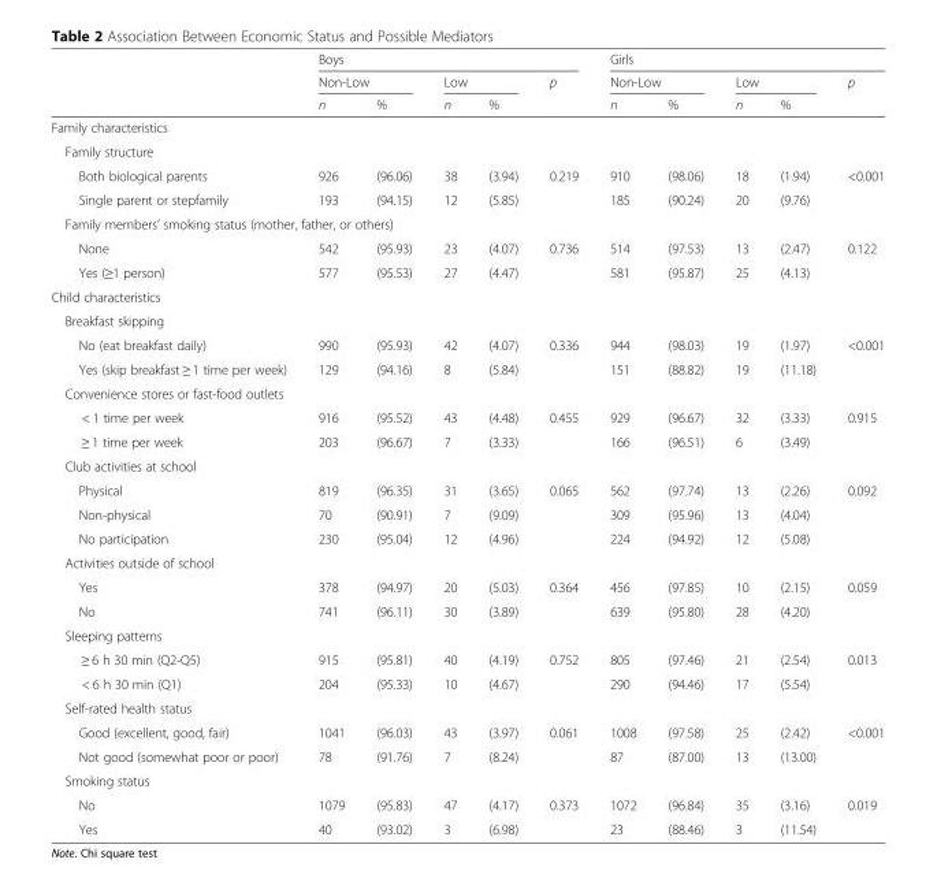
<table><thead><tr><td rowspan="3"></td><td colspan="5">Boys</td><td colspan="5">Girls</td></tr><tr><td colspan="2">Non-Low</td><td colspan="2">Low</td><td rowspan="2">p</td><td colspan="2">Non-Low</td><td colspan="2">Low</td><td rowspan="2">p</td></tr><tr><td>n</td><td>%</td><td>n</td><td>%</td><td>n</td><td>%</td><td>n</td><td>%</td></tr></thead><tbody><tr><td colspan="11">Family characteristics</td></tr><tr><td colspan="11">Family structure</td></tr><tr><td>Both biological parents</td><td>926</td><td>(96.06)</td><td>38</td><td>(3.94)</td><td rowspan="2">0.219</td><td>910</td><td>(98.06)</td><td>18</td><td>(1.94)</td><td rowspan="2">&lt;0.001</td></tr><tr><td>Single parent or stepfamily</td><td>193</td><td>(94.15)</td><td>12</td><td>(5.85)</td><td>185</td><td>(90.24)</td><td>20</td><td>(9.76)</td></tr><tr><td colspan="11">Family members’ smoking status (mother, father, or others)</td></tr><tr><td>None</td><td>542</td><td>(95.93)</td><td>23</td><td>(4.07)</td><td rowspan="2">0.736</td><td>514</td><td>(97.53)</td><td>13</td><td>(2.47)</td><td rowspan="2">0.122</td></tr><tr><td>Yes (≥1 person)</td><td>577</td><td>(95.53)</td><td>27</td><td>(4.47)</td><td>581</td><td>(95.87)</td><td>25</td><td>(4.13)</td></tr><tr><td colspan="11">Child characteristics</td></tr><tr><td colspan="11">Breakfast skipping</td></tr><tr><td>No (eat breakfast daily)</td><td>990</td><td>(95.93)</td><td>42</td><td>(4.07)</td><td rowspan="2">0.336</td><td>944</td><td>(98.03)</td><td>19</td><td>(1.97)</td><td rowspan="2">&lt;0.001</td></tr><tr><td>Yes (skip breakfast ≥ 1 time per week)</td><td>129</td><td>(94.16)</td><td>8</td><td>(5.84)</td><td>151</td><td>(88.82)</td><td>19</td><td>(11.18)</td></tr><tr><td colspan="11">Convenience stores or fast-food outlets</td></tr><tr><td>&lt; 1 time per week</td><td>916</td><td>(95.52)</td><td>43</td><td>(4.48)</td><td rowspan="2">0.455</td><td>929</td><td>(96.67)</td><td>32</td><td>(3.33)</td><td rowspan="2">0.915</td></tr><tr><td>≥ 1 time per week</td><td>203</td><td>(96.67)</td><td>7</td><td>(3.33)</td><td>166</td><td>(96.51)</td><td>6</td><td>(3.49)</td></tr><tr><td colspan="11">Club activities at school</td></tr><tr><td>Physical</td><td>819</td><td>(96.35)</td><td>31</td><td>(3.65)</td><td rowspan="3">0.065</td><td>562</td><td>(97.74)</td><td>13</td><td>(2.26)</td><td rowspan="3">0.092</td></tr><tr><td>Non-physical</td><td>70</td><td>(90.91)</td><td>7</td><td>(9.09)</td><td>309</td><td>(95.96)</td><td>13</td><td>(4.04)</td></tr><tr><td>No participation</td><td>230</td><td>(95.04)</td><td>12</td><td>(4.96)</td><td>224</td><td>(94.92)</td><td>12</td><td>(5.08)</td></tr><tr><td colspan="11">Activities outside of school</td></tr><tr><td>Yes</td><td>378</td><td>(94.97)</td><td>20</td><td>(5.03)</td><td rowspan="2">0.364</td><td>456</td><td>(97.85)</td><td>10</td><td>(2.15)</td><td rowspan="2">0.059</td></tr><tr><td>No</td><td>741</td><td>(96.11)</td><td>30</td><td>(3.89)</td><td>639</td><td>(95.80)</td><td>28</td><td>(4.20)</td></tr><tr><td colspan="11">Sleeping patterns</td></tr><tr><td>≥ 6 h 30 min (Q2-Q5)</td><td>915</td><td>(95.81)</td><td>40</td><td>(4.19)</td><td rowspan="2">0.752</td><td>805</td><td>(97.46)</td><td>21</td><td>(2.54)</td><td rowspan="2">0.013</td></tr><tr><td>&lt; 6 h 30 min (Q1)</td><td>204</td><td>(95.33)</td><td>10</td><td>(4.67)</td><td>290</td><td>(94.46)</td><td>17</td><td>(5.54)</td></tr><tr><td colspan="11">Self-rated health status</td></tr><tr><td>Good (excellent, good, fair)</td><td>1041</td><td>(96.03)</td><td>43</td><td>(3.97)</td><td rowspan="2">0.061</td><td>1008</td><td>(97.58)</td><td>25</td><td>(2.42)</td><td rowspan="2">&lt;0.001</td></tr><tr><td>Not good (somewhat poor or poor)</td><td>78</td><td>(91.76)</td><td>7</td><td>(8.24)</td><td>87</td><td>(87.00)</td><td>13</td><td>(13.00)</td></tr><tr><td colspan="11">Smoking status</td></tr><tr><td>No</td><td>1079</td><td>(95.83)</td><td>47</td><td>(4.17)</td><td rowspan="2">0.373</td><td>1072</td><td>(96.84)</td><td>35</td><td>(3.16)</td><td rowspan="2">0.019</td></tr><tr><td>Yes</td><td>40</td><td>(93.02)</td><td>3</td><td>(6.98)</td><td>23</td><td>(88.46)</td><td>3</td><td>(11.54)</td></tr></tbody></table>